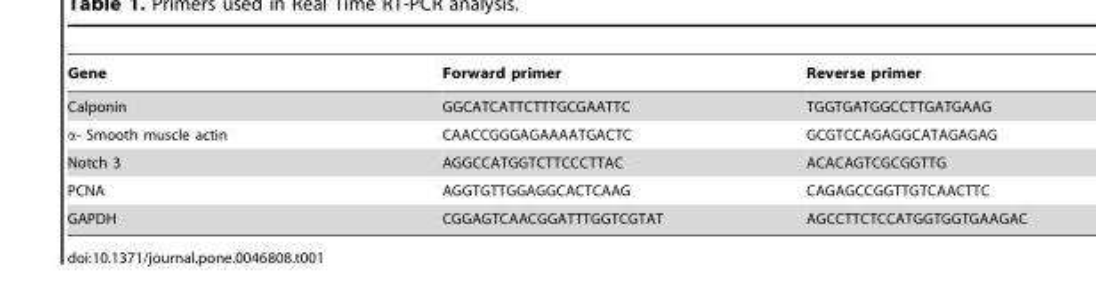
<table><thead><tr><td>Gene</td><td>Forward primer</td><td>Reverse primer</td></tr></thead><tbody><tr><td>Calponin</td><td>GGCATCATTCTTTGCGAATTC</td><td>TGGTGATGGCCTTGATGAAG</td></tr><tr><td>α- Smooth muscle actin</td><td>CAACCGGGAGAAAATGACTC</td><td>GCGTCCAGAGGCATAGAGAG</td></tr><tr><td>Notch 3</td><td>AGGCCATGGTCTTCCCTTAC</td><td>ACACAGTCGCGGTTG</td></tr><tr><td>PCNA</td><td>AGGTGTTGGAGGCACTCAAG</td><td>CAGAGCCGGTTGTCAACTTC</td></tr><tr><td>GAPDH</td><td>CGGAGTCAACGGATTTGGTCGTAT</td><td>AGCCTTCTCCATGGTGGTGAAGAC</td></tr></tbody></table>